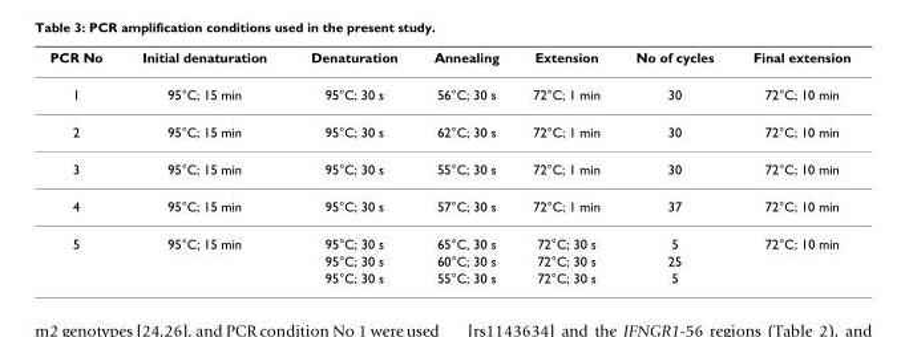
<table><thead><tr><td>PCR No</td><td>Initial denaturation</td><td>Denaturation</td><td>Annealing</td><td>Extension</td><td>No of cycles</td><td>Final extension</td></tr></thead><tbody><tr><td>1</td><td>95°C; 15 min</td><td>95°C; 30 s</td><td>56°C; 30 s</td><td>72°C; 1 min</td><td>30</td><td>72°C; 10 min</td></tr><tr><td>2</td><td>95°C; 15 min</td><td>95°C; 30 s</td><td>62°C; 30 s</td><td>72°C; 1 min</td><td>30</td><td>72°C; 10 min</td></tr><tr><td>3</td><td>95°C; 15 min</td><td>95°C; 30 s</td><td>55°C; 30 s</td><td>72°C; 1 min</td><td>30</td><td>72°C; 10 min</td></tr><tr><td>4</td><td>95°C; 15 min</td><td>95°C; 30 s</td><td>57°C; 30 s</td><td>72°C; 1 min</td><td>37</td><td>72°C; 10 min</td></tr><tr><td rowspan="3">5</td><td>95°C; 15 min</td><td>95°C; 30 s</td><td>65°C, 30 s</td><td>72°C; 30 s</td><td>5</td><td>72°C; 10 min</td></tr><tr><td></td><td>95°C; 30 s</td><td>60°C; 30 s</td><td>72°C; 30 s</td><td>25</td><td></td></tr><tr><td></td><td>95°C; 30 s</td><td>55°C; 30 s</td><td>72°C; 30 s</td><td>5</td><td></td></tr></tbody></table>